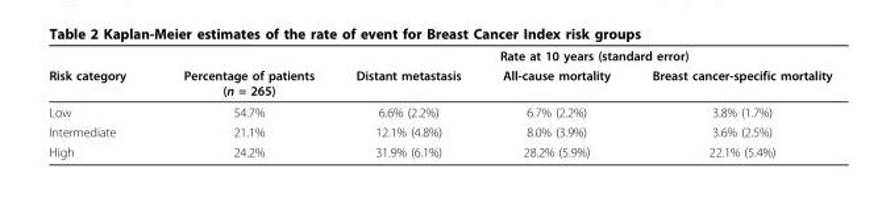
<table><thead><tr><td rowspan="2">Risk category</td><td rowspan="2">Percentage of patients (n = 265)</td><td colspan="3">Rate at 10 years (standard error)</td></tr><tr><td>Distant metastasis</td><td>All-cause mortality</td><td>Breast cancer-specific mortality</td></tr></thead><tbody><tr><td>Low</td><td>54.7%</td><td>6.6% (2.2%)</td><td>6.7% (2.2%)</td><td>3.8% (1.7%)</td></tr><tr><td>Intermediate</td><td>21.1%</td><td>12.1% (4.8%)</td><td>8.0% (3.9%)</td><td>3.6% (2.5%)</td></tr><tr><td>High</td><td>24.2%</td><td>31.9% (6.1%)</td><td>28.2% (5.9%)</td><td>22.1% (5.4%)</td></tr></tbody></table>